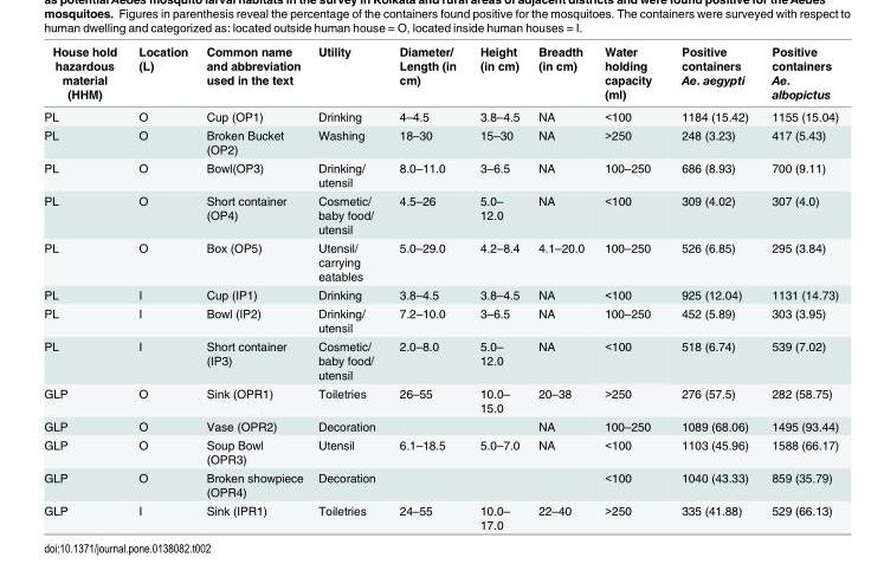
<table><thead><tr><td>House hold hazardous material (HHM)</td><td>Location (L)</td><td>Common name and abbreviation used in the text</td><td>Utility</td><td>Diameter/ Length (in cm)</td><td>Height (in cm)</td><td>Breadth (in cm)</td><td>Water holding capacity (ml)</td><td>Positive containers Ae. aegypti</td><td>Positive containers Ae. albopictus</td></tr></thead><tbody><tr><td>PL</td><td>O</td><td>Cup (OP1)</td><td>Drinking</td><td>4–4.5</td><td>3.8–4.5</td><td>NA</td><td>&lt;100</td><td>1184 (15.42)</td><td>1155 (15.04)</td></tr><tr><td>PL</td><td>O</td><td>Broken Bucket (OP2)</td><td>Washing</td><td>18–30</td><td>15–30</td><td>NA</td><td>&gt;250</td><td>248 (3.23)</td><td>417 (5.43)</td></tr><tr><td>PL</td><td>O</td><td>Bowl(OP3)</td><td>Drinking/ utensil</td><td>8.0–11.0</td><td>3–6.5</td><td>NA</td><td>100–250</td><td>686 (8.93)</td><td>700 (9.11)</td></tr><tr><td>PL</td><td>O</td><td>Short container (OP4)</td><td>Cosmetic/ baby food/ utensil</td><td>4.5–26</td><td>5.0– 12.0</td><td>NA</td><td>&lt;100</td><td>309 (4.02)</td><td>307 (4.0)</td></tr><tr><td>PL</td><td>O</td><td>Box (OP5)</td><td>Utensil/ carrying eatables</td><td>5.0–29.0</td><td>4.2–8.4</td><td>4.1–20.0</td><td>100–250</td><td>526 (6.85)</td><td>295 (3.84)</td></tr><tr><td>PL</td><td>I</td><td>Cup (IP1)</td><td>Drinking</td><td>3.8–4.5</td><td>3.8–4.5</td><td>NA</td><td>&lt;100</td><td>925 (12.04)</td><td>1131 (14.73)</td></tr><tr><td>PL</td><td>I</td><td>Bowl (IP2)</td><td>Drinking/ utensil</td><td>7.2–10.0</td><td>3–6.5</td><td>NA</td><td>100–250</td><td>452 (5.89)</td><td>303 (3.95)</td></tr><tr><td>PL</td><td>I</td><td>Short container (IP3)</td><td>Cosmetic/ baby food/ utensil</td><td>2.0–8.0</td><td>5.0– 12.0</td><td>NA</td><td>&lt;100</td><td>518 (6.74)</td><td>539 (7.02)</td></tr><tr><td>GLP</td><td>O</td><td>Sink (OPR1)</td><td>Toiletries</td><td>26–55</td><td>10.0– 15.0</td><td>20–38</td><td>&gt;250</td><td>276 (57.5)</td><td>282 (58.75)</td></tr><tr><td>GLP</td><td>O</td><td>Vase (OPR2)</td><td>Decoration</td><td></td><td></td><td>NA</td><td>100–250</td><td>1089 (68.06)</td><td>1495 (93.44)</td></tr><tr><td>GLP</td><td>O</td><td>Soup Bowl (OPR3)</td><td>Utensil</td><td>6.1–18.5</td><td>5.0–7.0</td><td>NA</td><td>&lt;100</td><td>1103 (45.96)</td><td>1588 (66.17)</td></tr><tr><td>GLP</td><td>O</td><td>Broken showpiece (OPR4)</td><td>Decoration</td><td></td><td></td><td></td><td>&lt;100</td><td>1040 (43.33)</td><td>859 (35.79)</td></tr><tr><td>GLP</td><td>I</td><td>Sink (IPR1)</td><td>Toiletries</td><td>24–55</td><td>10.0– 17.0</td><td>22–40</td><td>&gt;250</td><td>335 (41.88)</td><td>529 (66.13)</td></tr></tbody></table>